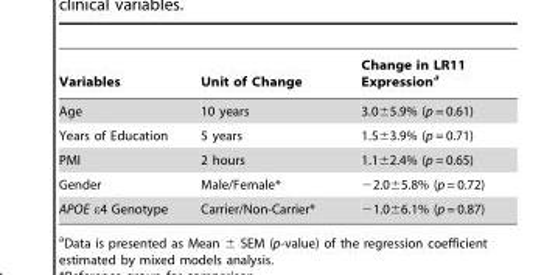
<table><thead><tr><td>Variables</td><td>Unit of Change</td><td>Change in LR11 Expression<sup>a</sup></td></tr></thead><tbody><tr><td>Age</td><td>10 years</td><td>3.0±5.9% (p = 0.61)</td></tr><tr><td>Years of Education</td><td>5 years</td><td>1.5±3.9% (p = 0.71)</td></tr><tr><td>PMI</td><td>2 hours</td><td>1.1±2.4% (p = 0.65)</td></tr><tr><td>Gender</td><td>Male/Female*</td><td>−2.0±5.8% (p = 0.72)</td></tr><tr><td>APOE ε4 Genotype</td><td>Carrier/Non-Carrier*</td><td>−1.0±6.1% (p = 0.87)</td></tr></tbody></table>